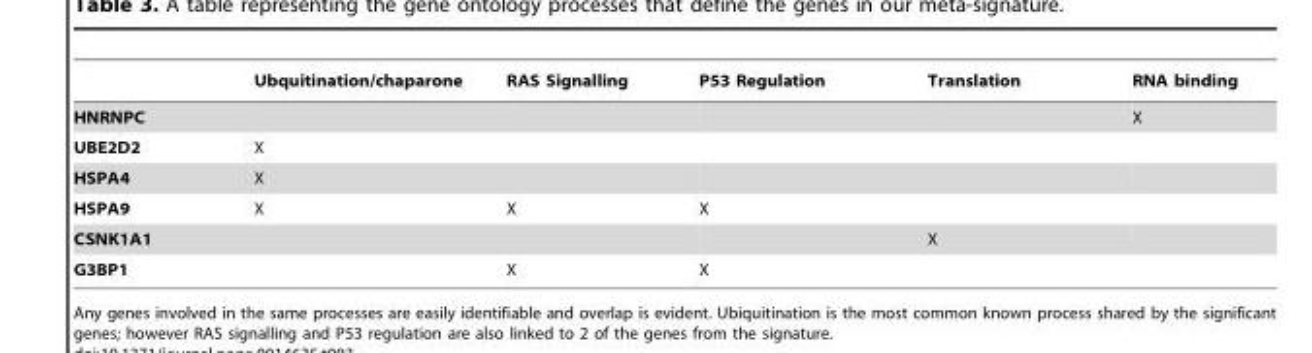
<table><thead><tr><td></td><td>Ubquitination/chaparone</td><td>RAS Signalling</td><td>P53 Regulation</td><td>Translation</td><td>RNA binding</td></tr></thead><tbody><tr><td>HNRNPC</td><td></td><td></td><td></td><td></td><td>X</td></tr><tr><td>UBE2D2</td><td>X</td><td></td><td></td><td></td><td></td></tr><tr><td>HSPA4</td><td>X</td><td></td><td></td><td></td><td></td></tr><tr><td>HSPA9</td><td>X</td><td>X</td><td>X</td><td></td><td></td></tr><tr><td>CSNK1A1</td><td></td><td></td><td></td><td>X</td><td></td></tr><tr><td>G3BP1</td><td></td><td>X</td><td>X</td><td></td><td></td></tr></tbody></table>